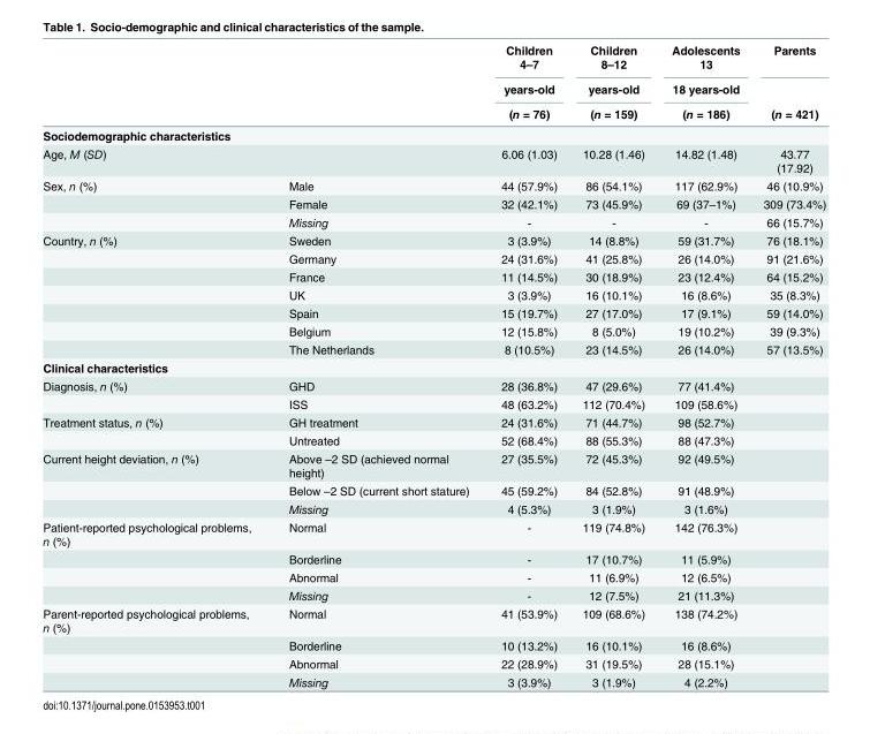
<table><thead><tr><td rowspan="3"></td><td rowspan="3"></td><td rowspan="3">Children 4–7 years-old (n = 76)</td><td rowspan="3">Children 8–12 years-old (n = 159)</td><td rowspan="3">Adolescents 13 18 years-old (n = 186)</td><td rowspan="3">Parents (n = 421)</td></tr><tr></tr><tr></tr></thead><tbody><tr><td colspan="6">Sociodemographic characteristics</td></tr><tr><td>Age, M (SD)</td><td></td><td>6.06 (1.03)</td><td>10.28 (1.46)</td><td>14.82 (1.48)</td><td>43.77 (17.92)</td></tr><tr><td rowspan="3">Sex, n (%)</td><td>Male</td><td>44 (57.9%)</td><td>86 (54.1%)</td><td>117 (62.9%)</td><td>46 (10.9%)</td></tr><tr><td>Female</td><td>32 (42.1%)</td><td>73 (45.9%)</td><td>69 (37–1%)</td><td>309 (73.4%)</td></tr><tr><td>Missing</td><td>-</td><td>-</td><td>-</td><td>66 (15.7%)</td></tr><tr><td rowspan="7">Country, n (%)</td><td>Sweden</td><td>3 (3.9%)</td><td>14 (8.8%)</td><td>59 (31.7%)</td><td>76 (18.1%)</td></tr><tr><td>Germany</td><td>24 (31.6%)</td><td>41 (25.8%)</td><td>26 (14.0%)</td><td>91 (21.6%)</td></tr><tr><td>France</td><td>11 (14.5%)</td><td>30 (18.9%)</td><td>23 (12.4%)</td><td>64 (15.2%)</td></tr><tr><td>UK</td><td>3 (3.9%)</td><td>16 (10.1%)</td><td>16 (8.6%)</td><td>35 (8.3%)</td></tr><tr><td>Spain</td><td>15 (19.7%)</td><td>27 (17.0%)</td><td>17 (9.1%)</td><td>59 (14.0%)</td></tr><tr><td>Belgium</td><td>12 (15.8%)</td><td>8 (5.0%)</td><td>19 (10.2%)</td><td>39 (9.3%)</td></tr><tr><td>The Netherlands</td><td>8 (10.5%)</td><td>23 (14.5%)</td><td>26 (14.0%)</td><td>57 (13.5%)</td></tr><tr><td colspan="6">Clinical characteristics</td></tr><tr><td rowspan="2">Diagnosis, n (%)</td><td>GHD</td><td>28 (36.8%)</td><td>47 (29.6%)</td><td>77 (41.4%)</td><td></td></tr><tr><td>ISS</td><td>48 (63.2%)</td><td>112 (70.4%)</td><td>109 (58.6%)</td><td></td></tr><tr><td rowspan="2">Treatment status, n (%)</td><td>GH treatment</td><td>24 (31.6%)</td><td>71 (44.7%)</td><td>98 (52.7%)</td><td></td></tr><tr><td>Untreated</td><td>52 (68.4%)</td><td>88 (55.3%)</td><td>88 (47.3%)</td><td></td></tr><tr><td rowspan="3">Current height deviation, n (%)</td><td>Above –2 SD (achieved normal height)</td><td>27 (35.5%)</td><td>72 (45.3%)</td><td>92 (49.5%)</td><td></td></tr><tr><td>Below –2 SD (current short stature)</td><td>45 (59.2%)</td><td>84 (52.8%)</td><td>91 (48.9%)</td><td></td></tr><tr><td>Missing</td><td>4 (5.3%)</td><td>3 (1.9%)</td><td>3 (1.6%)</td><td></td></tr><tr><td rowspan="4">Patient-reported psychological problems, n (%)</td><td>Normal</td><td>-</td><td>119 (74.8%)</td><td>142 (76.3%)</td><td></td></tr><tr><td>Borderline</td><td>-</td><td>17 (10.7%)</td><td>11 (5.9%)</td><td></td></tr><tr><td>Abnormal</td><td>-</td><td>11 (6.9%)</td><td>12 (6.5%)</td><td></td></tr><tr><td>Missing</td><td>-</td><td>12 (7.5%)</td><td>21 (11.3%)</td><td></td></tr><tr><td rowspan="4">Parent-reported psychological problems, n (%)</td><td>Normal</td><td>41 (53.9%)</td><td>109 (68.6%)</td><td>138 (74.2%)</td><td></td></tr><tr><td>Borderline</td><td>10 (13.2%)</td><td>16 (10.1%)</td><td>16 (8.6%)</td><td></td></tr><tr><td>Abnormal</td><td>22 (28.9%)</td><td>31 (19.5%)</td><td>28 (15.1%)</td><td></td></tr><tr><td>Missing</td><td>3 (3.9%)</td><td>3 (1.9%)</td><td>4 (2.2%)</td><td></td></tr></tbody></table>